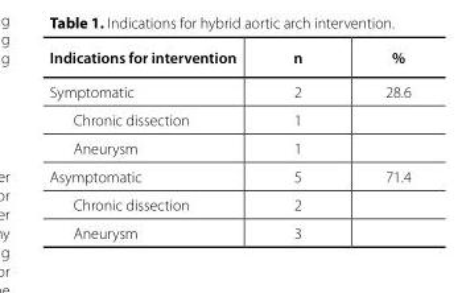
<table><thead><tr><td>Indications for intervention</td><td>n</td><td>%</td></tr></thead><tbody><tr><td>Symptomatic</td><td>2</td><td>28.6</td></tr><tr><td>Chronic dissection</td><td>1</td><td></td></tr><tr><td>Aneurysm</td><td>1</td><td></td></tr><tr><td>Asymptomatic</td><td>5</td><td>71.4</td></tr><tr><td>Chronic dissection</td><td>2</td><td></td></tr><tr><td>Aneurysm</td><td>3</td><td></td></tr></tbody></table>